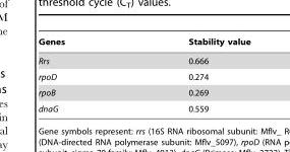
<table><thead><tr><td>Genes</td><td>Stability value</td></tr></thead><tbody><tr><td>Rrs</td><td>0.666</td></tr><tr><td>rpoD</td><td>0.274</td></tr><tr><td>rpoB</td><td>0.269</td></tr><tr><td>dnaG</td><td>0.559</td></tr></tbody></table>